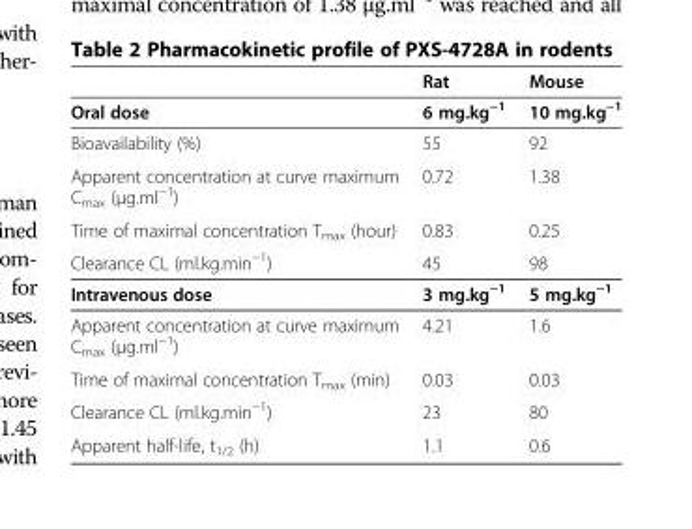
<table><thead><tr><td></td><td>Rat</td><td>Mouse</td></tr></thead><tbody><tr><td>Oral dose</td><td>6 mg.kg<sup>−1</sup></td><td>10 mg.kg<sup>−1</sup></td></tr><tr><td>Bioavailability (%)</td><td>55</td><td>92</td></tr><tr><td>Apparent concentration at curve maximum C<sub>max</sub> (μg.ml<sup>−1</sup>)</td><td>0.72</td><td>1.38</td></tr><tr><td>Time of maximal concentration T<sub>max</sub> (hour)</td><td>0.83</td><td>0.25</td></tr><tr><td>Clearance CL (ml.kg.min<sup>−1</sup>)</td><td>45</td><td>98</td></tr><tr><td>Intravenous dose</td><td>3 mg.kg<sup>−1</sup></td><td>5 mg.kg<sup>−1</sup></td></tr><tr><td>Apparent concentration at curve maximum C<sub>max</sub> (μg.ml<sup>−1</sup>)</td><td>4.21</td><td>1.6</td></tr><tr><td>Time of maximal concentration T<sub>max</sub> (min)</td><td>0.03</td><td>0.03</td></tr><tr><td>Clearance CL (ml.kg.min<sup>−1</sup>)</td><td>23</td><td>80</td></tr><tr><td>Apparent half-life, t<sub>1/2</sub> (h)</td><td>1.1</td><td>0.6</td></tr></tbody></table>